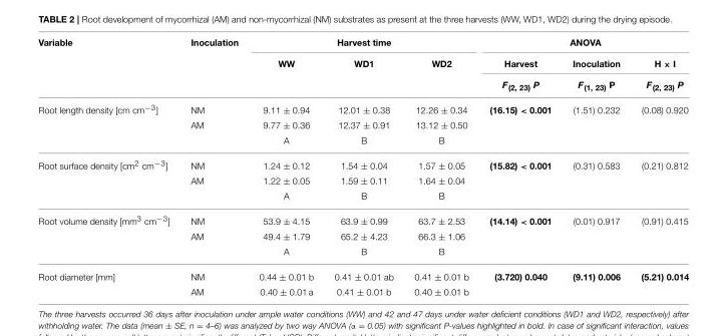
<table><thead><tr><td rowspan="3">Variable</td><td rowspan="3">Inoculation</td><td colspan="3">Harvest time</td><td colspan="3">ANOVA</td></tr><tr><td rowspan="2">WW</td><td rowspan="2">WD1</td><td rowspan="2">WD2</td><td rowspan="2">Harvest F<sub>(2, 23)</sub> P</td><td rowspan="2">Inoculation F<sub>(1, 23)</sub> P</td><td rowspan="2">H × I F<sub>(2, 23)</sub> P</td></tr><tr></tr></thead><tbody><tr><td rowspan="3">Root length density [cm cm<sup>−3</sup>]</td><td>NM</td><td>9.11 ± 0.94</td><td>12.01 ± 0.38</td><td>12.26 ± 0.34</td><td>(16.15) &lt; 0.001</td><td>(1.51) 0.232</td><td>(0.08) 0.920</td></tr><tr><td>AM</td><td>9.77 ± 0.36</td><td>12.37 ± 0.91</td><td>13.12 ± 0.50</td><td></td><td></td><td></td></tr><tr><td></td><td>A</td><td>B</td><td>B</td><td></td><td></td><td></td></tr><tr><td rowspan="3">Root surface density [cm<sup>2</sup> cm<sup>−3</sup>]</td><td>NM</td><td>1.24 ± 0.12</td><td>1.54 ± 0.04</td><td>1.57 ± 0.05</td><td>(15.82) &lt; 0.001</td><td>(0.31) 0.583</td><td>(0.21) 0.812</td></tr><tr><td>AM</td><td>1.22 ± 0.05</td><td>1.59 ± 0.11</td><td>1.64 ± 0.04</td><td></td><td></td><td></td></tr><tr><td></td><td>A</td><td>B</td><td>B</td><td></td><td></td><td></td></tr><tr><td rowspan="3">Root volume density [mm<sup>3</sup> cm<sup>−3</sup>]</td><td>NM</td><td>53.9 ± 4.15</td><td>63.9 ± 0.99</td><td>63.7 ± 2.53</td><td>(14.14) &lt; 0.001</td><td>(0.01) 0.917</td><td>(0.91) 0.415</td></tr><tr><td>AM</td><td>49.4 ± 1.79</td><td>65.2 ± 4.23</td><td>66.3 ± 1.06</td><td></td><td></td><td></td></tr><tr><td></td><td>A</td><td>B</td><td>B</td><td></td><td></td><td></td></tr><tr><td rowspan="2">Root diameter [mm]</td><td>NM</td><td>0.44 ± 0.01 b</td><td>0.41 ± 0.01 ab</td><td>0.41 ± 0.01 b</td><td>(3.720) 0.040</td><td>(9.11) 0.006</td><td>(5.21) 0.014</td></tr><tr><td>AM</td><td>0.40 ± 0.01 a</td><td>0.41 ± 0.01 b</td><td>0.40 ± 0.01 b</td><td></td><td></td><td></td></tr></tbody></table>